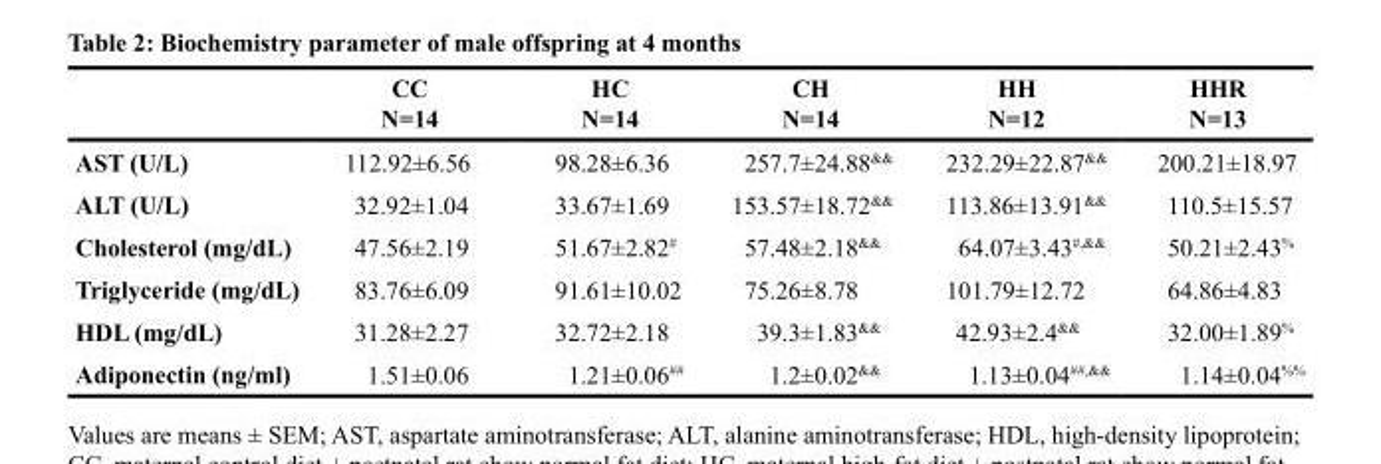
<table><thead><tr><td></td><td>CC N=14</td><td>HC N=14</td><td>CH N=14</td><td>HH N=12</td><td>HHR N=13</td></tr></thead><tbody><tr><td>AST (U/L)</td><td>112.92±6.56</td><td>98.28±6.36</td><td>257.7±24.88<sup>&amp;&amp;</sup></td><td>232.29±22.87<sup>&amp;&amp;</sup></td><td>200.21±18.97</td></tr><tr><td>ALT (U/L)</td><td>32.92±1.04</td><td>33.67±1.69</td><td>153.57±18.72<sup>&amp;&amp;</sup></td><td>113.86±13.91<sup>&amp;&amp;</sup></td><td>110.5±15.57</td></tr><tr><td>Cholesterol (mg/dL)</td><td>47.56±2.19</td><td>51.67±2.82<sup>#</sup></td><td>57.48±2.18<sup>&amp;&amp;</sup></td><td>64.07±3.43<sup>#,&amp;&amp;</sup></td><td>50.21±2.43<sup>%</sup></td></tr><tr><td>Triglyceride (mg/dL)</td><td>83.76±6.09</td><td>91.61±10.02</td><td>75.26±8.78</td><td>101.79±12.72</td><td>64.86±4.83</td></tr><tr><td>HDL (mg/dL)</td><td>31.28±2.27</td><td>32.72±2.18</td><td>39.3±1.83<sup>&amp;&amp;</sup></td><td>42.93±2.4<sup>&amp;&amp;</sup></td><td>32.00±1.89<sup>%</sup></td></tr><tr><td>Adiponectin (ng/ml)</td><td>1.51±0.06</td><td>1.21±0.06<sup>##</sup></td><td>1.2±0.02<sup>&amp;&amp;</sup></td><td>1.13±0.04<sup>##,&amp;&amp;</sup></td><td>1.14±0.04<sup>%%</sup></td></tr></tbody></table>